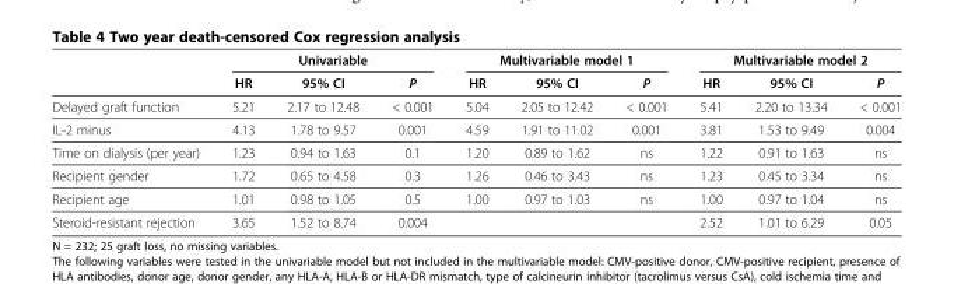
<table><thead><tr><td rowspan="2"></td><td colspan="3">Univariable</td><td colspan="3">Multivariable model 1</td><td colspan="3">Multivariable model 2</td></tr><tr><td>HR</td><td>95% CI</td><td>P</td><td>HR</td><td>95% CI</td><td>P</td><td>HR</td><td>95% CI</td><td>P</td></tr></thead><tbody><tr><td>Delayed graft function</td><td>5.21</td><td>2.17 to 12.48</td><td>&lt; 0.001</td><td>5.04</td><td>2.05 to 12.42</td><td>&lt; 0.001</td><td>5.41</td><td>2.20 to 13.34</td><td>&lt; 0.001</td></tr><tr><td>IL-2 minus</td><td>4.13</td><td>1.78 to 9.57</td><td>0.001</td><td>4.59</td><td>1.91 to 11.02</td><td>0.001</td><td>3.81</td><td>1.53 to 9.49</td><td>0.004</td></tr><tr><td>Time on dialysis (per year)</td><td>1.23</td><td>0.94 to 1.63</td><td>0.1</td><td>1.20</td><td>0.89 to 1.62</td><td>ns</td><td>1.22</td><td>0.91 to 1.63</td><td>ns</td></tr><tr><td>Recipient gender</td><td>1.72</td><td>0.65 to 4.58</td><td>0.3</td><td>1.26</td><td>0.46 to 3.43</td><td>ns</td><td>1.23</td><td>0.45 to 3.34</td><td>ns</td></tr><tr><td>Recipient age</td><td>1.01</td><td>0.98 to 1.05</td><td>0.5</td><td>1.00</td><td>0.97 to 1.03</td><td>ns</td><td>1.00</td><td>0.97 to 1.04</td><td>ns</td></tr><tr><td>Steroid-resistant rejection</td><td>3.65</td><td>1.52 to 8.74</td><td>0.004</td><td></td><td></td><td></td><td>2.52</td><td>1.01 to 6.29</td><td>0.05</td></tr></tbody></table>